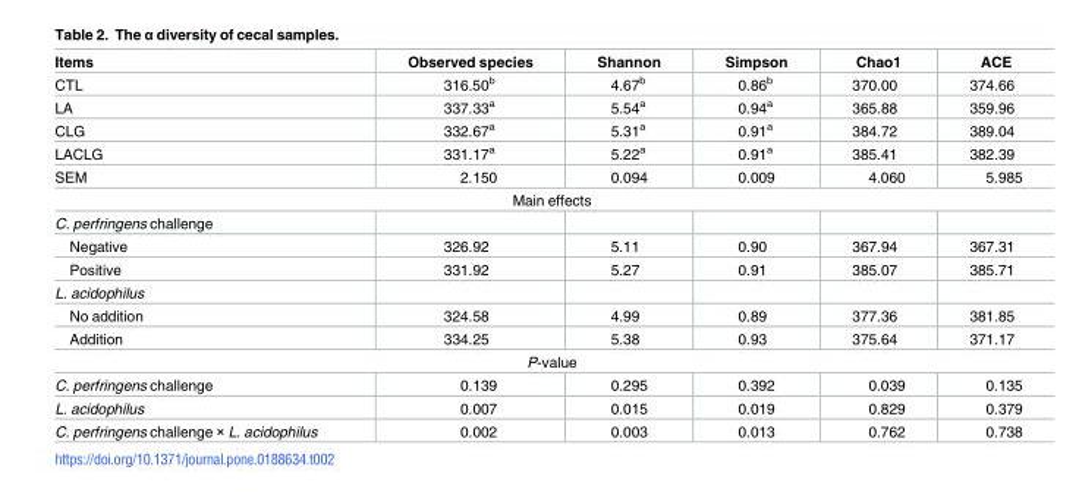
<table><thead><tr><td>Items</td><td>Observed species</td><td>Shannon</td><td>Simpson</td><td>Chao1</td><td>ACE</td></tr></thead><tbody><tr><td>CTL</td><td>316.50<sup>b</sup></td><td>4.67<sup>b</sup></td><td>0.86<sup>b</sup></td><td>370.00</td><td>374.66</td></tr><tr><td>LA</td><td>337.33<sup>a</sup></td><td>5.54<sup>a</sup></td><td>0.94<sup>a</sup></td><td>365.88</td><td>359.96</td></tr><tr><td>CLG</td><td>332.67<sup>a</sup></td><td>5.31<sup>a</sup></td><td>0.91<sup>a</sup></td><td>384.72</td><td>389.04</td></tr><tr><td>LACLG</td><td>331.17<sup>a</sup></td><td>5.22<sup>a</sup></td><td>0.91<sup>a</sup></td><td>385.41</td><td>382.39</td></tr><tr><td>SEM</td><td>2.150</td><td>0.094</td><td>0.009</td><td>4.060</td><td>5.985</td></tr><tr><td colspan="6">Main effects</td></tr><tr><td colspan="6">C. perfringens challenge</td></tr><tr><td>Negative</td><td>326.92</td><td>5.11</td><td>0.90</td><td>367.94</td><td>367.31</td></tr><tr><td>Positive</td><td>331.92</td><td>5.27</td><td>0.91</td><td>385.07</td><td>385.71</td></tr><tr><td colspan="6">L. acidophilus</td></tr><tr><td>No addition</td><td>324.58</td><td>4.99</td><td>0.89</td><td>377.36</td><td>381.85</td></tr><tr><td>Addition</td><td>334.25</td><td>5.38</td><td>0.93</td><td>375.64</td><td>371.17</td></tr><tr><td colspan="6">P-value</td></tr><tr><td>C. perfringens challenge</td><td>0.139</td><td>0.295</td><td>0.392</td><td>0.039</td><td>0.135</td></tr><tr><td>L. acidophilus</td><td>0.007</td><td>0.015</td><td>0.019</td><td>0.829</td><td>0.379</td></tr><tr><td>C. perfringens challenge × L. acidophilus</td><td>0.002</td><td>0.003</td><td>0.013</td><td>0.762</td><td>0.738</td></tr></tbody></table>